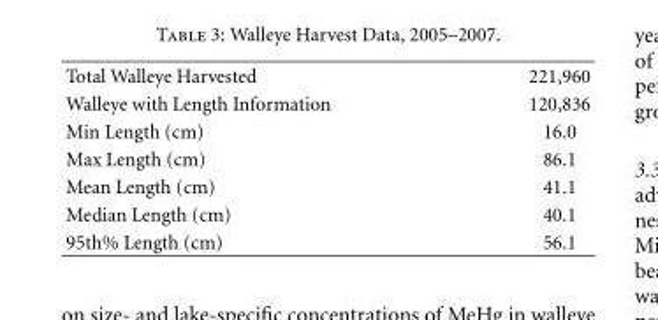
<table><tbody><tr><td>Total Walleye Harvested</td><td>221,960</td></tr><tr><td>Walleye with Length Information</td><td>120,836</td></tr><tr><td>Min Length (cm)</td><td>16.0</td></tr><tr><td>Max Length (cm)</td><td>86.1</td></tr><tr><td>Mean Length (cm)</td><td>41.1</td></tr><tr><td>Median Length (cm)</td><td>40.1</td></tr><tr><td>95th% Length (cm)</td><td>56.1</td></tr></tbody></table>